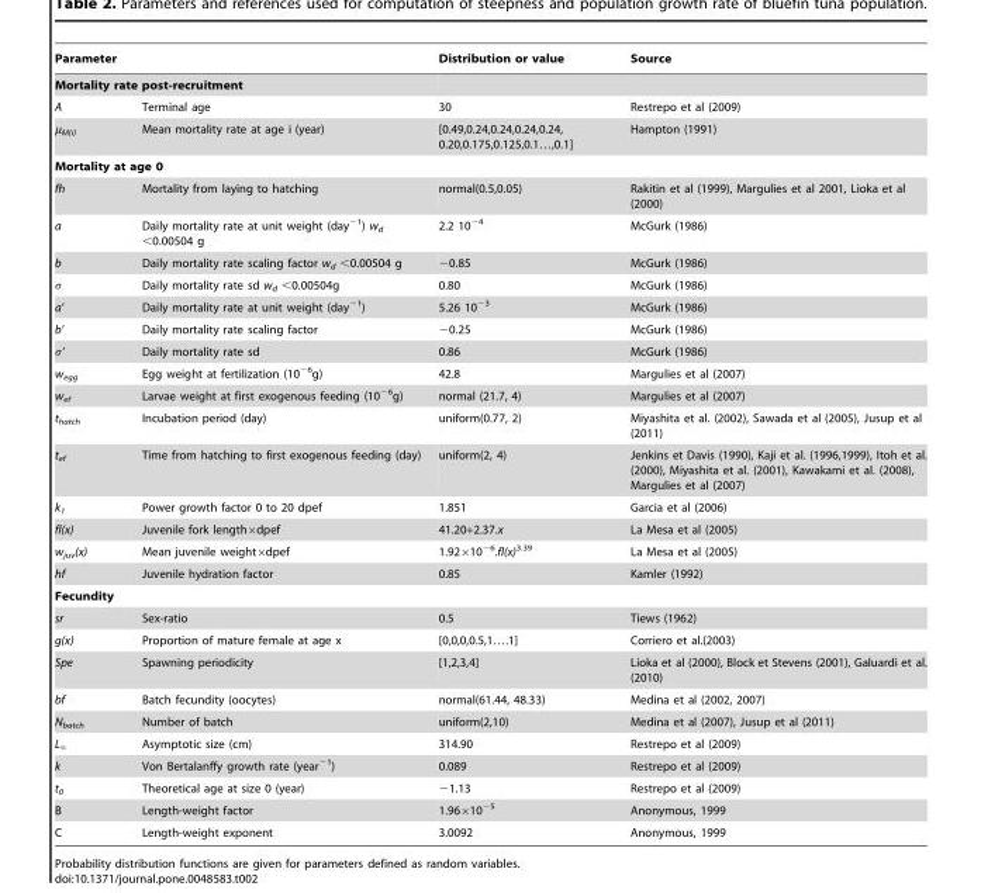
<table><thead><tr><td rowspan="2" colspan="2">Parameter Mortality rate post-recruitment</td><td rowspan="3">Distribution or value 30</td><td rowspan="3">Source Restrepo et al (2009)</td></tr><tr></tr><tr><td>A</td><td>Terminal age</td></tr></thead><tbody><tr><td>µ<sub>M(i)</sub></td><td>Mean mortality rate at age i (year)</td><td>[0.49,0.24,0.24,0.24,0.24, 0.20,0.175,0.125,0.1…,0.1]</td><td>Hampton (1991)</td></tr><tr><td colspan="4">Mortality at age 0</td></tr><tr><td>fh</td><td>Mortality from laying to hatching</td><td>normal(0.5,0.05)</td><td>Rakitin et al (1999), Margulies et al 2001, Lioka et al (2000)</td></tr><tr><td>a</td><td>Daily mortality rate at unit weight (day<sup>−1</sup>) w<sub>d</sub> &lt;0.00504 g</td><td>2.2 10<sup>−4</sup></td><td>McGurk (1986)</td></tr><tr><td>b</td><td>Daily mortality rate scaling factor w<sub>d</sub> &lt;0.00504 g</td><td>−0.85</td><td>McGurk (1986)</td></tr><tr><td>σ</td><td>Daily mortality rate sd w<sub>d</sub> &lt;0.00504g</td><td>0.80</td><td>McGurk (1986)</td></tr><tr><td>a’</td><td>Daily mortality rate at unit weight (day<sup>−1</sup>)</td><td>5.26 10<sup>−3</sup></td><td>McGurk (1986)</td></tr><tr><td>b’</td><td>Daily mortality rate scaling factor</td><td>−0.25</td><td>McGurk (1986)</td></tr><tr><td>σ’</td><td>Daily mortality rate sd</td><td>0.86</td><td>McGurk (1986)</td></tr><tr><td>w<sub>egg</sub></td><td>Egg weight at fertilization (10<sup>−6</sup>g)</td><td>42.8</td><td>Margulies et al (2007)</td></tr><tr><td>w<sub>ef</sub></td><td>Larvae weight at first exogenous feeding (10<sup>−6</sup>g)</td><td>normal (21.7, 4)</td><td>Margulies et al (2007)</td></tr><tr><td>t<sub>hatch</sub></td><td>Incubation period (day)</td><td>uniform(0.77, 2)</td><td>Miyashita et al. (2002), Sawada et al (2005), Jusup et al (2011)</td></tr><tr><td>t<sub>ef</sub></td><td>Time from hatching to first exogenous feeding (day)</td><td>uniform(2, 4)</td><td>Jenkins et Davis (1990), Kaji et al. (1996,1999), Itoh et al. (2000), Miyashita et al. (2001), Kawakami et al. (2008), Margulies et al (2007)</td></tr><tr><td>k<sub>1</sub></td><td>Power growth factor 0 to 20 dpef</td><td>1.851</td><td>Garcia et al (2006)</td></tr><tr><td>fl(x)</td><td>Juvenile fork length×dpef</td><td>41.20+2.37.x</td><td>La Mesa et al (2005)</td></tr><tr><td>w<sub>juv</sub>(x)</td><td>Mean juvenile weight×dpef</td><td>1.92×10<sup>−6</sup>.fl(x)<sup>3.39</sup></td><td>La Mesa et al (2005)</td></tr><tr><td>hf</td><td>Juvenile hydration factor</td><td>0.85</td><td>Kamler (1992)</td></tr><tr><td colspan="4">Fecundity</td></tr><tr><td>sr</td><td>Sex-ratio</td><td>0.5</td><td>Tiews (1962)</td></tr><tr><td>g(x)</td><td>Proportion of mature female at age x</td><td>[0,0,0,0.5,1….1]</td><td>Corriero et al.(2003)</td></tr><tr><td>Spe</td><td>Spawning periodicity</td><td>[1,2,3,4]</td><td>Lioka et al (2000), Block et Stevens (2001), Galuardi et al. (2010)</td></tr><tr><td>bf</td><td>Batch fecundity (oocytes)</td><td>normal(61.44, 48.33)</td><td>Medina et al (2002, 2007)</td></tr><tr><td>N<sub>batch</sub></td><td>Number of batch</td><td>uniform(2,10)</td><td>Medina et al (2007), Jusup et al (2011)</td></tr><tr><td>L‘</td><td>Asymptotic size (cm)</td><td>314.90</td><td>Restrepo et al (2009)</td></tr><tr><td>k</td><td>Von Bertalanffy growth rate (year<sup>−1</sup>)</td><td>0.089</td><td>Restrepo et al (2009)</td></tr><tr><td>t<sub>0</sub></td><td>Theoretical age at size 0 (year)</td><td>−1.13</td><td>Restrepo et al (2009)</td></tr><tr><td>B</td><td>Length-weight factor</td><td>1.96×10<sup>−5</sup></td><td>Anonymous, 1999</td></tr><tr><td>C</td><td>Length-weight exponent</td><td>3.0092</td><td>Anonymous, 1999</td></tr></tbody></table>